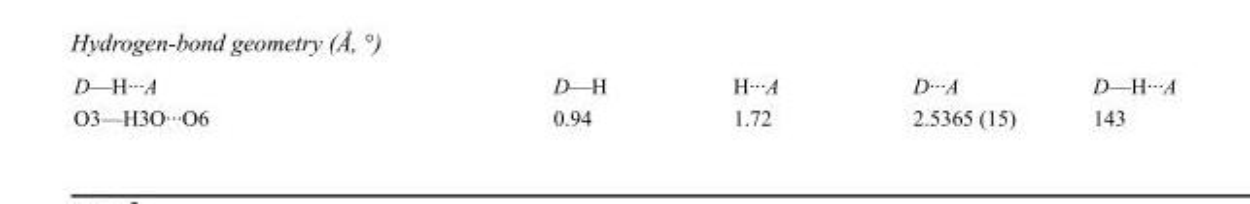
<table><tbody><tr><td>D—H···A</td><td>D—H</td><td>H···A</td><td>D···A</td><td>D—H···A</td></tr><tr><td>O3—H3O···O6</td><td>0.94</td><td>1.72</td><td>2.5365 (15)</td><td>143</td></tr></tbody></table>